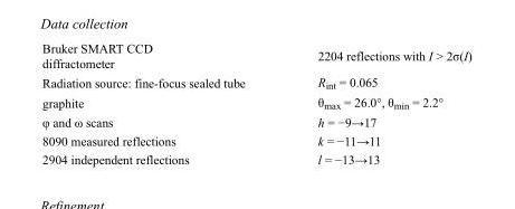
<table><tbody><tr><td>Bruker SMART CCD diffractometer</td><td>2204 reflections with I &gt; 2σ(I)</td></tr><tr><td>Radiation source: fine-focus sealed tube</td><td>R<sub>int</sub> = 0.065</td></tr><tr><td>graphite</td><td>θ<sub>max</sub> = 26.0°, θ<sub>min</sub> = 2.2°</td></tr><tr><td>φ and ω scans</td><td>h = −9→17</td></tr><tr><td>8090 measured reflections</td><td>k = −11→11</td></tr><tr><td>2904 independent reflections</td><td>l = −13→13</td></tr></tbody></table>